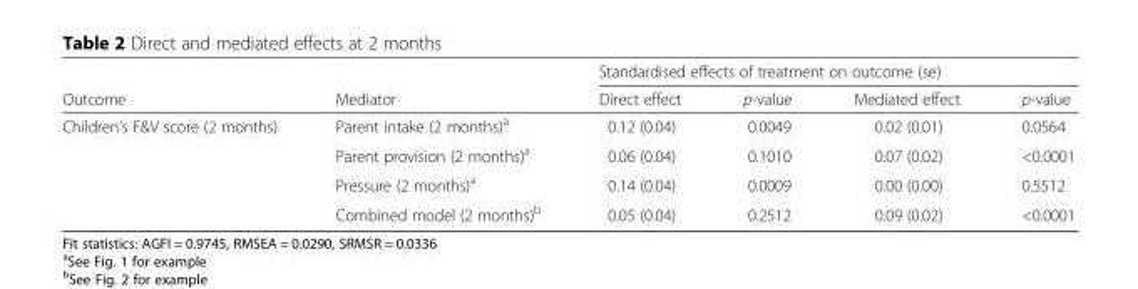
<table><thead><tr><td rowspan="2">Outcome</td><td rowspan="2">Mediator</td><td colspan="4">Standardised effects of treatment on outcome (se)</td></tr><tr><td>Direct effect</td><td>p-value</td><td>Mediated effect</td><td>p-value</td></tr></thead><tbody><tr><td rowspan="4">Children’s F&amp;V score (2 months)</td><td>Parent intake (2 months)<sup>a</sup></td><td>0.12 (0.04)</td><td>0.0049</td><td>0.02 (0.01)</td><td>0.0564</td></tr><tr><td>Parent provision (2 months)<sup>a</sup></td><td>0.06 (0.04)</td><td>0.1010</td><td>0.07 (0.02)</td><td>&lt;0.0001</td></tr><tr><td>Pressure (2 months)<sup>a</sup></td><td>0.14 (0.04)</td><td>0.0009</td><td>0.00 (0.00)</td><td>0.5512</td></tr><tr><td>Combined model (2 months)<sup>b</sup></td><td>0.05 (0.04)</td><td>0.2512</td><td>0.09 (0.02)</td><td>&lt;0.0001</td></tr></tbody></table>